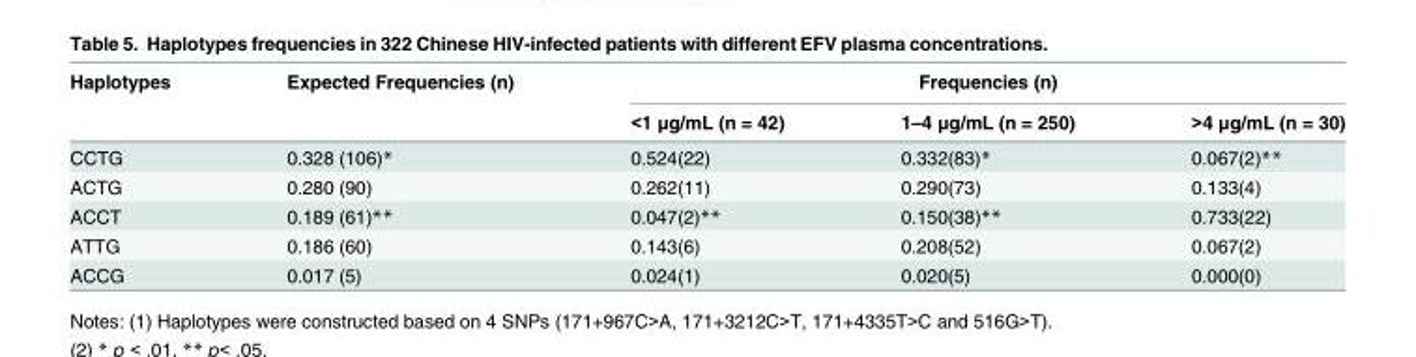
<table><thead><tr><td rowspan="2">Haplotypes</td><td rowspan="2">Expected Frequencies (n)</td><td colspan="3">Frequencies (n)</td></tr><tr><td>&lt;1 μg/mL (n = 42)</td><td>1–4 μg/mL (n = 250)</td><td>&gt;4 μg/mL (n = 30)</td></tr></thead><tbody><tr><td>CCTG</td><td>0.328 (106)*</td><td>0.524(22)</td><td>0.332(83)*</td><td>0.067(2)**</td></tr><tr><td>ACTG</td><td>0.280 (90)</td><td>0.262(11)</td><td>0.290(73)</td><td>0.133(4)</td></tr><tr><td>ACCT</td><td>0.189 (61)**</td><td>0.047(2)**</td><td>0.150(38)**</td><td>0.733(22)</td></tr><tr><td>ATTG</td><td>0.186 (60)</td><td>0.143(6)</td><td>0.208(52)</td><td>0.067(2)</td></tr><tr><td>ACCG</td><td>0.017 (5)</td><td>0.024(1)</td><td>0.020(5)</td><td>0.000(0)</td></tr></tbody></table>